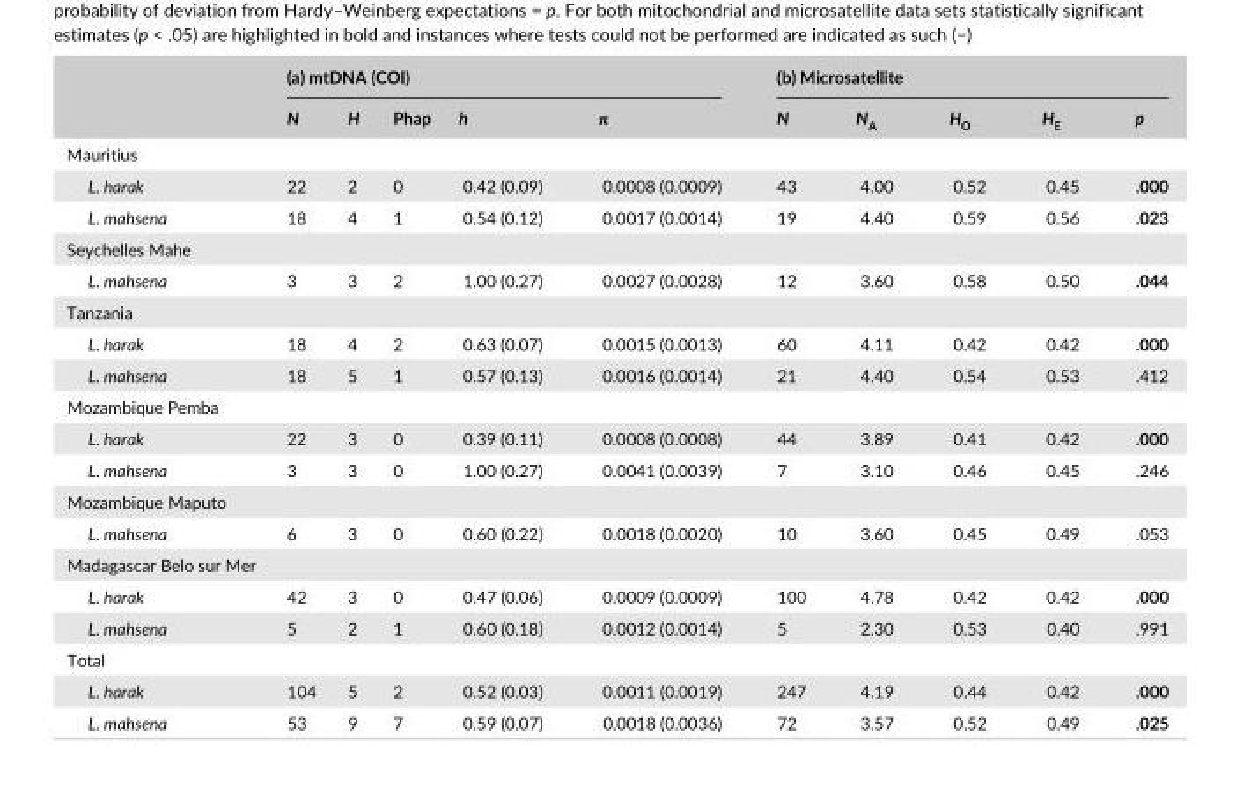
<table><thead><tr><td rowspan="2"></td><td colspan="5">(a) mtDNA (COI)</td><td colspan="5">(b) Microsatellite</td></tr><tr><td>N</td><td>H</td><td>Phap</td><td>h</td><td>π</td><td>N</td><td>N<sub>A</sub></td><td>H<sub>O</sub></td><td>H<sub>E</sub></td><td>p</td></tr></thead><tbody><tr><td colspan="11">Mauritius</td></tr><tr><td>L. harak</td><td>22</td><td>2</td><td>0</td><td>0.42 (0.09)</td><td>0.0008 (0.0009)</td><td>43</td><td>4.00</td><td>0.52</td><td>0.45</td><td>.000</td></tr><tr><td>L. mahsena</td><td>18</td><td>4</td><td>1</td><td>0.54 (0.12)</td><td>0.0017 (0.0014)</td><td>19</td><td>4.40</td><td>0.59</td><td>0.56</td><td>.023</td></tr><tr><td colspan="11">Seychelles Mahe</td></tr><tr><td>L. mahsena</td><td>3</td><td>3</td><td>2</td><td>1.00 (0.27)</td><td>0.0027 (0.0028)</td><td>12</td><td>3.60</td><td>0.58</td><td>0.50</td><td>.044</td></tr><tr><td colspan="11">Tanzania</td></tr><tr><td>L. harak</td><td>18</td><td>4</td><td>2</td><td>0.63 (0.07)</td><td>0.0015 (0.0013)</td><td>60</td><td>4.11</td><td>0.42</td><td>0.42</td><td>.000</td></tr><tr><td>L. mahsena</td><td>18</td><td>5</td><td>1</td><td>0.57 (0.13)</td><td>0.0016 (0.0014)</td><td>21</td><td>4.40</td><td>0.54</td><td>0.53</td><td>.412</td></tr><tr><td colspan="11">Mozambique Pemba</td></tr><tr><td>L. harak</td><td>22</td><td>3</td><td>0</td><td>0.39 (0.11)</td><td>0.0008 (0.0008)</td><td>44</td><td>3.89</td><td>0.41</td><td>0.42</td><td>.000</td></tr><tr><td>L. mahsena</td><td>3</td><td>3</td><td>0</td><td>1.00 (0.27)</td><td>0.0041 (0.0039)</td><td>7</td><td>3.10</td><td>0.46</td><td>0.45</td><td>.246</td></tr><tr><td colspan="11">Mozambique Maputo</td></tr><tr><td>L. mahsena</td><td>6</td><td>3</td><td>0</td><td>0.60 (0.22)</td><td>0.0018 (0.0020)</td><td>10</td><td>3.60</td><td>0.45</td><td>0.49</td><td>.053</td></tr><tr><td colspan="11">Madagascar Belo sur Mer</td></tr><tr><td>L. harak</td><td>42</td><td>3</td><td>0</td><td>0.47 (0.06)</td><td>0.0009 (0.0009)</td><td>100</td><td>4.78</td><td>0.42</td><td>0.42</td><td>.000</td></tr><tr><td>L. mahsena</td><td>5</td><td>2</td><td>1</td><td>0.60 (0.18)</td><td>0.0012 (0.0014)</td><td>5</td><td>2.30</td><td>0.53</td><td>0.40</td><td>.991</td></tr><tr><td colspan="11">Total</td></tr><tr><td>L. harak</td><td>104</td><td>5</td><td>2</td><td>0.52 (0.03)</td><td>0.0011 (0.0019)</td><td>247</td><td>4.19</td><td>0.44</td><td>0.42</td><td>.000</td></tr><tr><td>L. mahsena</td><td>53</td><td>9</td><td>7</td><td>0.59 (0.07)</td><td>0.0018 (0.0036)</td><td>72</td><td>3.57</td><td>0.52</td><td>0.49</td><td>.025</td></tr></tbody></table>